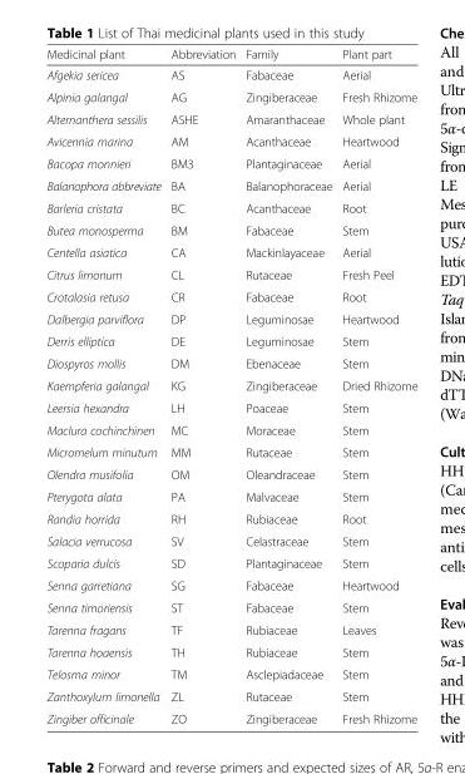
<table><thead><tr><td>Medicinal plant</td><td>Abbreviation</td><td>Family</td><td>Plant part</td></tr></thead><tbody><tr><td>Afgekia sericea</td><td>AS</td><td>Fabaceae</td><td>Aerial</td></tr><tr><td>Alpinia galangal</td><td>AG</td><td>Zingiberaceae</td><td>Fresh Rhizome</td></tr><tr><td>Alternanthera sessilis</td><td>ASHE</td><td>Amaranthaceae</td><td>Whole plant</td></tr><tr><td>Avicennia marina</td><td>AM</td><td>Acanthaceae</td><td>Heartwood</td></tr><tr><td>Bacopa monnieri</td><td>BM3</td><td>Plantaginaceae</td><td>Aerial</td></tr><tr><td>Balanophora abbreviate</td><td>BA</td><td>Balanophoraceae</td><td>Aerial</td></tr><tr><td>Barleria cristata</td><td>BC</td><td>Acanthaceae</td><td>Root</td></tr><tr><td>Butea monosperma</td><td>BM</td><td>Fabaceae</td><td>Stem</td></tr><tr><td>Centella asiatica</td><td>CA</td><td>Mackinlayaceae</td><td>Aerial</td></tr><tr><td>Citrus limonum</td><td>CL</td><td>Rutaceae</td><td>Fresh Peel</td></tr><tr><td>Crotalasia retusa</td><td>CR</td><td>Fabaceae</td><td>Root</td></tr><tr><td>Dalbergia parviflora</td><td>DP</td><td>Leguminosae</td><td>Heartwood</td></tr><tr><td>Derris elliptica</td><td>DE</td><td>Leguminosae</td><td>Stem</td></tr><tr><td>Diospyros mollis</td><td>DM</td><td>Ebenaceae</td><td>Stem</td></tr><tr><td>Kaempferia galangal</td><td>KG</td><td>Zingiberaceae</td><td>Dried Rhizome</td></tr><tr><td>Leersia hexandra</td><td>LH</td><td>Poaceae</td><td>Stem</td></tr><tr><td>Maclura cochinchinen</td><td>MC</td><td>Moraceae</td><td>Stem</td></tr><tr><td>Micromelum minutum</td><td>MM</td><td>Rutaceae</td><td>Stem</td></tr><tr><td>Olendra musifolia</td><td>OM</td><td>Oleandraceae</td><td>Stem</td></tr><tr><td>Pterygota alata</td><td>PA</td><td>Malvaceae</td><td>Stem</td></tr><tr><td>Randia horrida</td><td>RH</td><td>Rubiaceae</td><td>Root</td></tr><tr><td>Salacia verrucosa</td><td>SV</td><td>Celastraceae</td><td>Stem</td></tr><tr><td>Scoparia dulcis</td><td>SD</td><td>Plantaginaceae</td><td>Stem</td></tr><tr><td>Senna garretiana</td><td>SG</td><td>Fabaceae</td><td>Heartwood</td></tr><tr><td>Senna timoriensis</td><td>ST</td><td>Fabaceae</td><td>Stem</td></tr><tr><td>Tarenna fragans</td><td>TF</td><td>Rubiaceae</td><td>Leaves</td></tr><tr><td>Tarenna hoaensis</td><td>TH</td><td>Rubiaceae</td><td>Stem</td></tr><tr><td>Telosma minor</td><td>TM</td><td>Asclepiadaceae</td><td>Stem</td></tr><tr><td>Zanthoxylum limonella</td><td>ZL</td><td>Rutaceae</td><td>Stem</td></tr><tr><td>Zingiber officinale</td><td>ZO</td><td>Zingiberaceae</td><td>Fresh Rhizome</td></tr></tbody></table>